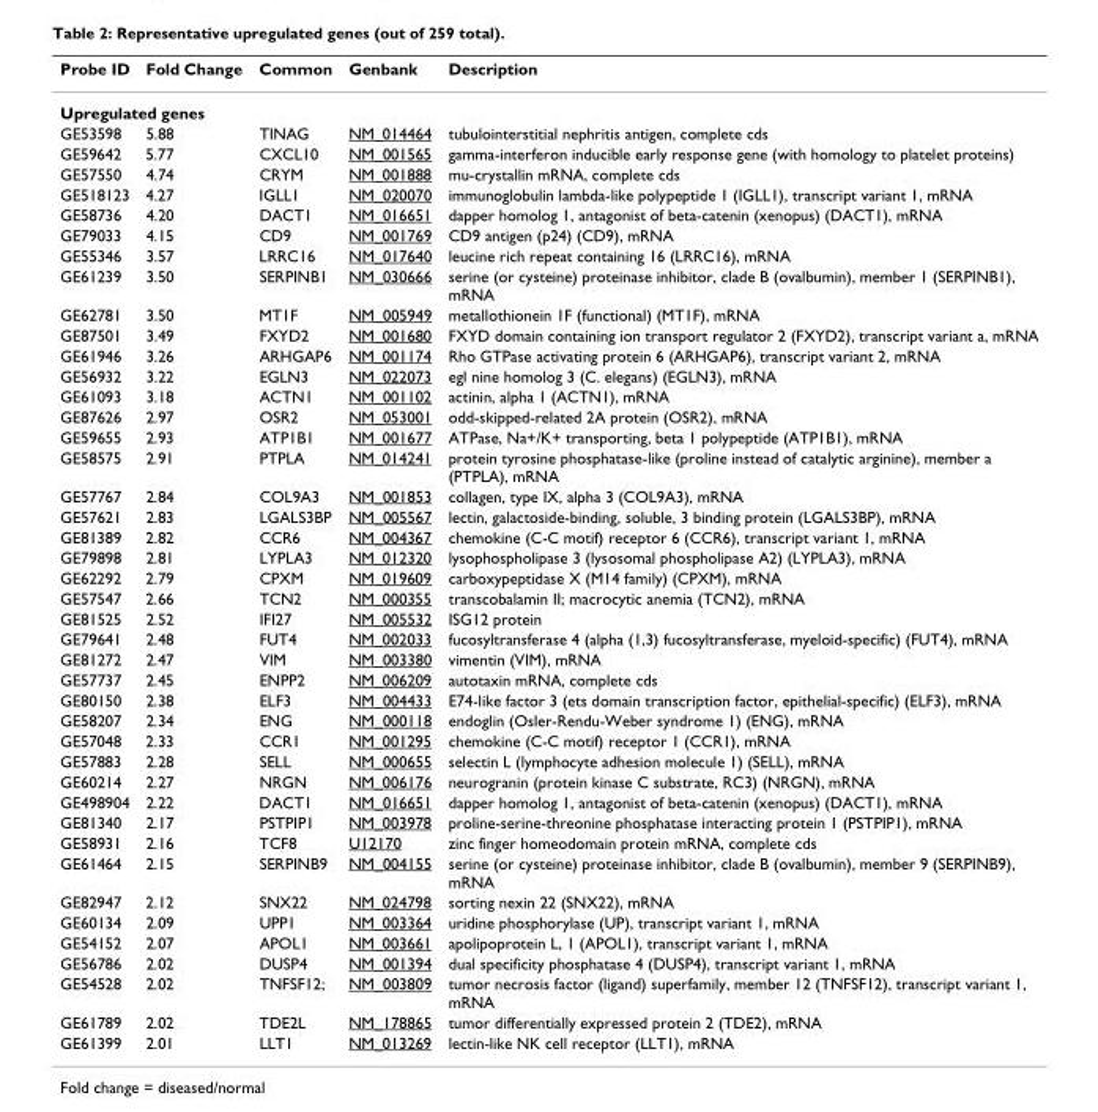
<table><thead><tr><td>Probe ID</td><td>Fold Change</td><td>Common</td><td>Genbank</td><td>Description</td></tr></thead><tbody><tr><td colspan="5">Upregulated genes</td></tr><tr><td>GE53598</td><td>5.88</td><td>TINAG</td><td>NM_014464</td><td>tubulointerstitial nephritis antigen, complete cds</td></tr><tr><td>GE59642</td><td>5.77</td><td>CXCL10</td><td>NM_001565</td><td>gamma-interferon inducible early response gene (with homology to platelet proteins)</td></tr><tr><td>GE57550</td><td>4.74</td><td>CRYM</td><td>NM_001888</td><td>mu-crystallin mRNA, complete cds</td></tr><tr><td>GE518123</td><td>4.27</td><td>IGLL1</td><td>NM_020070</td><td>immunoglobulin lambda-like polypeptide 1 (IGLL1), transcript variant 1, mRNA</td></tr><tr><td>GE58736</td><td>4.20</td><td>DACT1</td><td>NM_016651</td><td>dapper homolog 1, antagonist of beta-catenin (xenopus) (DACT1), mRNA</td></tr><tr><td>GE79033</td><td>4.15</td><td>CD9</td><td>NM_001769</td><td>CD9 antigen (p24) (CD9), mRNA</td></tr><tr><td>GE55346</td><td>3.57</td><td>LRRC16</td><td>NM_017640</td><td>leucine rich repeat containing 16 (LRRC16), mRNA</td></tr><tr><td>GE61239</td><td>3.50</td><td>SERPINB1</td><td>NM_030666</td><td>serine (or cysteine) proteinase inhibitor, clade B (ovalbumin), member 1 (SERPINB1), mRNA</td></tr><tr><td>GE62781</td><td>3.50</td><td>MT1F</td><td>NM_005949</td><td>metallothionein 1F (functional) (MT1F), mRNA</td></tr><tr><td>GE87501</td><td>3.49</td><td>FXYD2</td><td>NM_001680</td><td>FXYD domain containing ion transport regulator 2 (FXYD2), transcript variant a, mRNA</td></tr><tr><td>GE61946</td><td>3.26</td><td>ARHGAP6</td><td>NM_001174</td><td>Rho GTPase activating protein 6 (ARHGAP6), transcript variant 2, mRNA</td></tr><tr><td>GE56932</td><td>3.22</td><td>EGLN3</td><td>NM_022073</td><td>egl nine homolog 3 (C. elegans) (EGLN3), mRNA</td></tr><tr><td>GE61093</td><td>3.18</td><td>ACTN1</td><td>NM_001102</td><td>actinin, alpha 1 (ACTN1), mRNA</td></tr><tr><td>GE87626</td><td>2.97</td><td>OSR2</td><td>NM_053001</td><td>odd-skipped-related 2A protein (OSR2), mRNA</td></tr><tr><td>GE59655</td><td>2.93</td><td>ATP1B1</td><td>NM_001677</td><td>ATPase, Na+/K+ transporting, beta 1 polypeptide (ATP1B1), mRNA</td></tr><tr><td>GE58575</td><td>2.91</td><td>PTPLA</td><td>NM_014241</td><td>protein tyrosine phosphatase-like (proline instead of catalytic arginine), member a (PTPLA), mRNA</td></tr><tr><td>GE57767</td><td>2.84</td><td>COL9A3</td><td>NM_001853</td><td>collagen, type IX, alpha 3 (COL9A3), mRNA</td></tr><tr><td>GE57621</td><td>2.83</td><td>LGALS3BP</td><td>NM_005567</td><td>lectin, galactoside-binding, soluble, 3 binding protein (LGALS3BP), mRNA</td></tr><tr><td>GE81389</td><td>2.82</td><td>CCR6</td><td>NM_004367</td><td>chemokine (C-C motif) receptor 6 (CCR6), transcript variant 1, mRNA</td></tr><tr><td>GE79898</td><td>2.81</td><td>LYPLA3</td><td>NM_012320</td><td>lysophospholipase 3 (lysosomal phospholipase A2) (LYPLA3), mRNA</td></tr><tr><td>GE62292</td><td>2.79</td><td>CPXM</td><td>NM_019609</td><td>carboxypeptidase X (M14 family) (CPXM), mRNA</td></tr><tr><td>GE57547</td><td>2.66</td><td>TCN2</td><td>NM_000355</td><td>transcobalamin II; macrocytic anemia (TCN2), mRNA</td></tr><tr><td>GE81525</td><td>2.52</td><td>IFI27</td><td>NM_005532</td><td>ISG12 protein</td></tr><tr><td>GE79641</td><td>2.48</td><td>FUT4</td><td>NM_002033</td><td>fucosyltransferase 4 (alpha (1,3) fucosyltransferase, myeloid-specific) (FUT4), mRNA</td></tr><tr><td>GE81272</td><td>2.47</td><td>VIM</td><td>NM_003380</td><td>vimentin (VIM), mRNA</td></tr><tr><td>GE57737</td><td>2.45</td><td>ENPP2</td><td>NM_006209</td><td>autotaxin mRNA, complete cds</td></tr><tr><td>GE80150</td><td>2.38</td><td>ELF3</td><td>NM_004433</td><td>E74-like factor 3 (ets domain transcription factor, epithelial-specific) (ELF3), mRNA</td></tr><tr><td>GE58207</td><td>2.34</td><td>ENG</td><td>NM_000118</td><td>endoglin (Osler-Rendu-Weber syndrome 1) (ENG), mRNA</td></tr><tr><td>GE57048</td><td>2.33</td><td>CCR1</td><td>NM_001295</td><td>chemokine (C-C motif) receptor 1 (CCR1), mRNA</td></tr><tr><td>GE57883</td><td>2.28</td><td>SELL</td><td>NM_000655</td><td>selectin L (lymphocyte adhesion molecule 1) (SELL), mRNA</td></tr><tr><td>GE60214</td><td>2.27</td><td>NRGN</td><td>NM_006176</td><td>neurogranin (protein kinase C substrate, RC3) (NRGN), mRNA</td></tr><tr><td>GE498904</td><td>2.22</td><td>DACT1</td><td>NM_016651</td><td>dapper homolog 1, antagonist of beta-catenin (xenopus) (DACT1), mRNA</td></tr><tr><td>GE81340</td><td>2.17</td><td>PSTPIP1</td><td>NM_003978</td><td>proline-serine-threonine phosphatase interacting protein 1 (PSTPIP1), mRNA</td></tr><tr><td>GE58931</td><td>2.16</td><td>TCF8</td><td>U12170</td><td>zinc finger homeodomain protein mRNA, complete cds</td></tr><tr><td>GE61464</td><td>2.15</td><td>SERPINB9</td><td>NM_004155</td><td>serine (or cysteine) proteinase inhibitor, clade B (ovalbumin), member 9 (SERPINB9), mRNA</td></tr><tr><td>GE82947</td><td>2.12</td><td>SNX22</td><td>NM_024798</td><td>sorting nexin 22 (SNX22), mRNA</td></tr><tr><td>GE60134</td><td>2.09</td><td>UPP1</td><td>NM_003364</td><td>uridine phosphorylase (UP), transcript variant 1, mRNA</td></tr><tr><td>GE54152</td><td>2.07</td><td>APOL1</td><td>NM_003661</td><td>apolipoprotein L, 1 (APOL1), transcript variant 1, mRNA</td></tr><tr><td>GE56786</td><td>2.02</td><td>DUSP4</td><td>NM_001394</td><td>dual specificity phosphatase 4 (DUSP4), transcript variant 1, mRNA</td></tr><tr><td>GE54528</td><td>2.02</td><td>TNFSF12;</td><td>NM_003809</td><td>tumor necrosis factor (ligand) superfamily, member 12 (TNFSF12), transcript variant 1, mRNA</td></tr><tr><td>GE61789</td><td>2.02</td><td>TDE2L</td><td>NM_178865</td><td>tumor differentially expressed protein 2 (TDE2), mRNA</td></tr><tr><td>GE61399</td><td>2.01</td><td>LLT1</td><td>NM_013269</td><td>lectin-like NK cell receptor (LLT1), mRNA</td></tr></tbody></table>